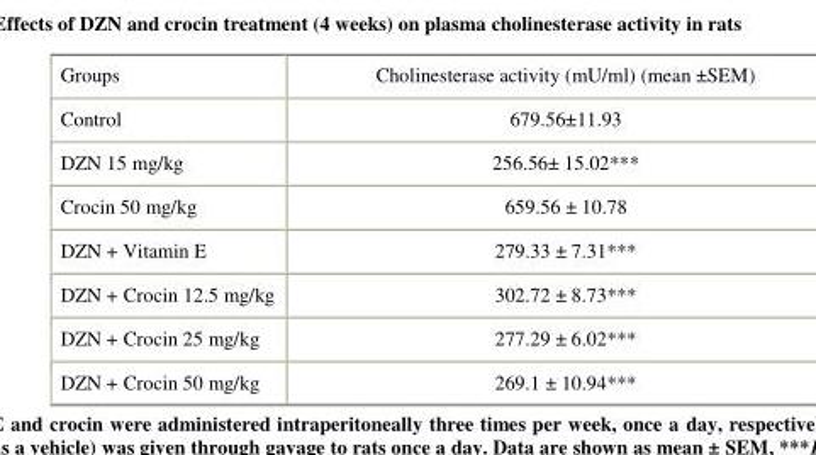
<table><thead><tr><td>Groups</td><td>Cholinesterase activity (mU/ml) (mean ±SEM)</td></tr></thead><tbody><tr><td>Control</td><td>679.56±11.93</td></tr><tr><td>DZN 15 mg/kg</td><td>256.56± 15.02***</td></tr><tr><td>Crocin 50 mg/kg</td><td>659.56 ± 10.78</td></tr><tr><td>DZN + Vitamin E</td><td>279.33 ± 7.31***</td></tr><tr><td>DZN + Crocin 12.5 mg/kg</td><td>302.72 ± 8.73***</td></tr><tr><td>DZN + Crocin 25 mg/kg</td><td>277.29 ± 6.02***</td></tr><tr><td>DZN + Crocin 50 mg/kg</td><td>269.1 ± 10.94***</td></tr></tbody></table>